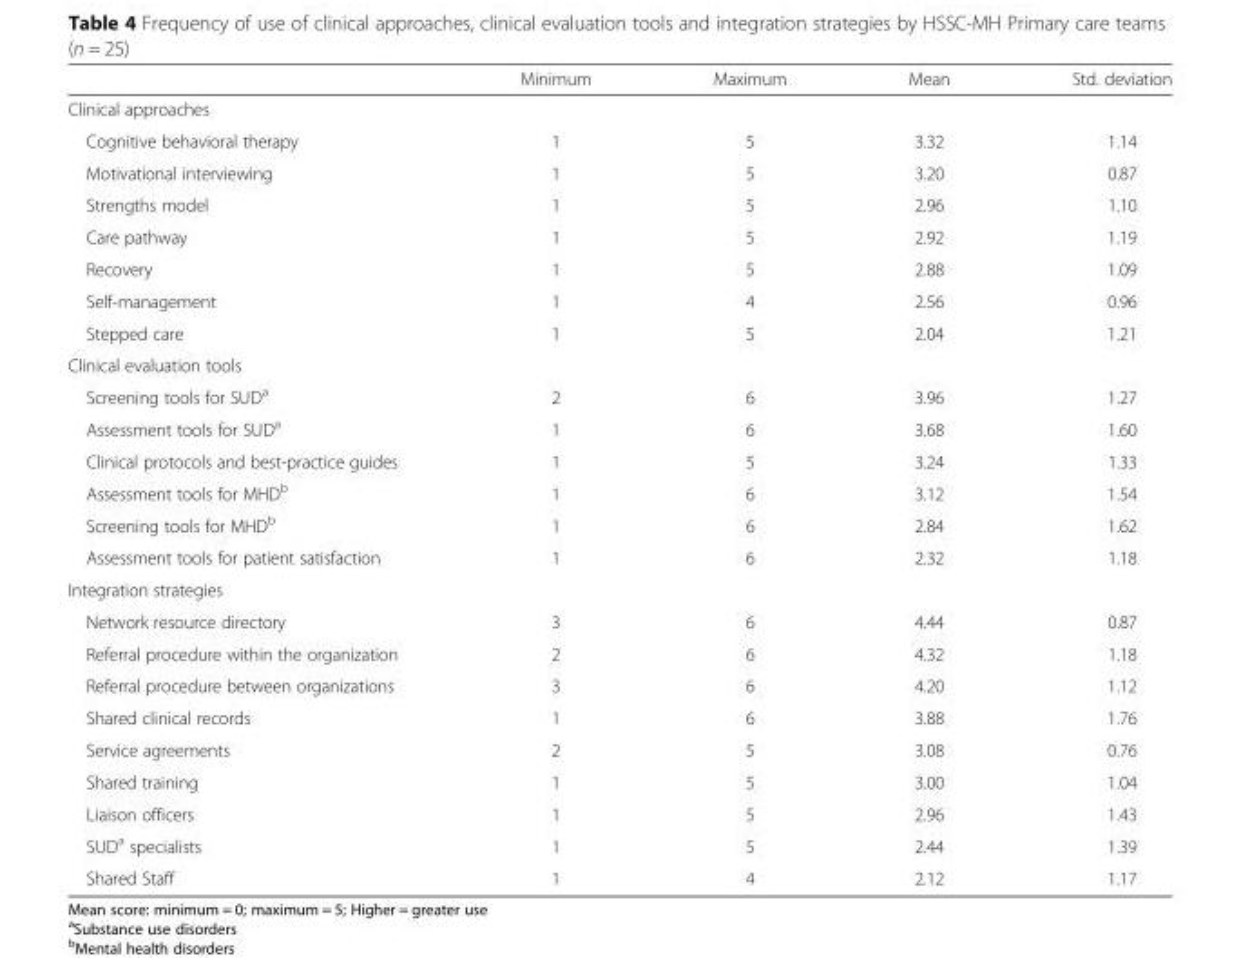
<table><thead><tr><td></td><td>Minimum</td><td>Maximum</td><td>Mean</td><td>Std. deviation</td></tr></thead><tbody><tr><td colspan="5">Clinical approaches</td></tr><tr><td>Cognitive behavioral therapy</td><td>1</td><td>5</td><td>3.32</td><td>1.14</td></tr><tr><td>Motivational interviewing</td><td>1</td><td>5</td><td>3.20</td><td>0.87</td></tr><tr><td>Strengths model</td><td>1</td><td>5</td><td>2.96</td><td>1.10</td></tr><tr><td>Care pathway</td><td>1</td><td>5</td><td>2.92</td><td>1.19</td></tr><tr><td>Recovery</td><td>1</td><td>5</td><td>2.88</td><td>1.09</td></tr><tr><td>Self-management</td><td>1</td><td>4</td><td>2.56</td><td>0.96</td></tr><tr><td>Stepped care</td><td>1</td><td>5</td><td>2.04</td><td>1.21</td></tr><tr><td colspan="5">Clinical evaluation tools</td></tr><tr><td>Screening tools for SUD<sup>a</sup></td><td>2</td><td>6</td><td>3.96</td><td>1.27</td></tr><tr><td>Assessment tools for SUD<sup>a</sup></td><td>1</td><td>6</td><td>3.68</td><td>1.60</td></tr><tr><td>Clinical protocols and best-practice guides</td><td>1</td><td>5</td><td>3.24</td><td>1.33</td></tr><tr><td>Assessment tools for MHD<sup>b</sup></td><td>1</td><td>6</td><td>3.12</td><td>1.54</td></tr><tr><td>Screening tools for MHD<sup>b</sup></td><td>1</td><td>6</td><td>2.84</td><td>1.62</td></tr><tr><td>Assessment tools for patient satisfaction</td><td>1</td><td>6</td><td>2.32</td><td>1.18</td></tr><tr><td colspan="5">Integration strategies</td></tr><tr><td>Network resource directory</td><td>3</td><td>6</td><td>4.44</td><td>0.87</td></tr><tr><td>Referral procedure within the organization</td><td>2</td><td>6</td><td>4.32</td><td>1.18</td></tr><tr><td>Referral procedure between organizations</td><td>3</td><td>6</td><td>4.20</td><td>1.12</td></tr><tr><td>Shared clinical records</td><td>1</td><td>6</td><td>3.88</td><td>1.76</td></tr><tr><td>Service agreements</td><td>2</td><td>5</td><td>3.08</td><td>0.76</td></tr><tr><td>Shared training</td><td>1</td><td>5</td><td>3.00</td><td>1.04</td></tr><tr><td>Liaison officers</td><td>1</td><td>5</td><td>2.96</td><td>1.43</td></tr><tr><td>SUD<sup>a</sup> specialists</td><td>1</td><td>5</td><td>2.44</td><td>1.39</td></tr><tr><td>Shared Staff</td><td>1</td><td>4</td><td>2.12</td><td>1.17</td></tr></tbody></table>